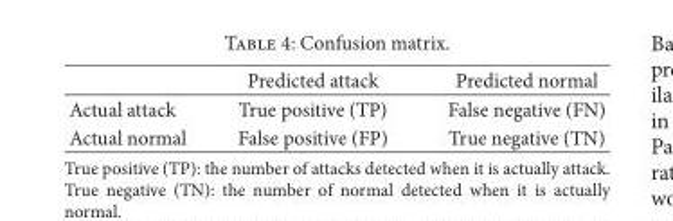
<table><thead><tr><td></td><td>Predicted attack</td><td>Predicted normal</td></tr></thead><tbody><tr><td>Actual attack</td><td>True positive (TP)</td><td>False negative (FN)</td></tr><tr><td>Actual normal</td><td>False positive (FP)</td><td>True negative (TN)</td></tr></tbody></table>